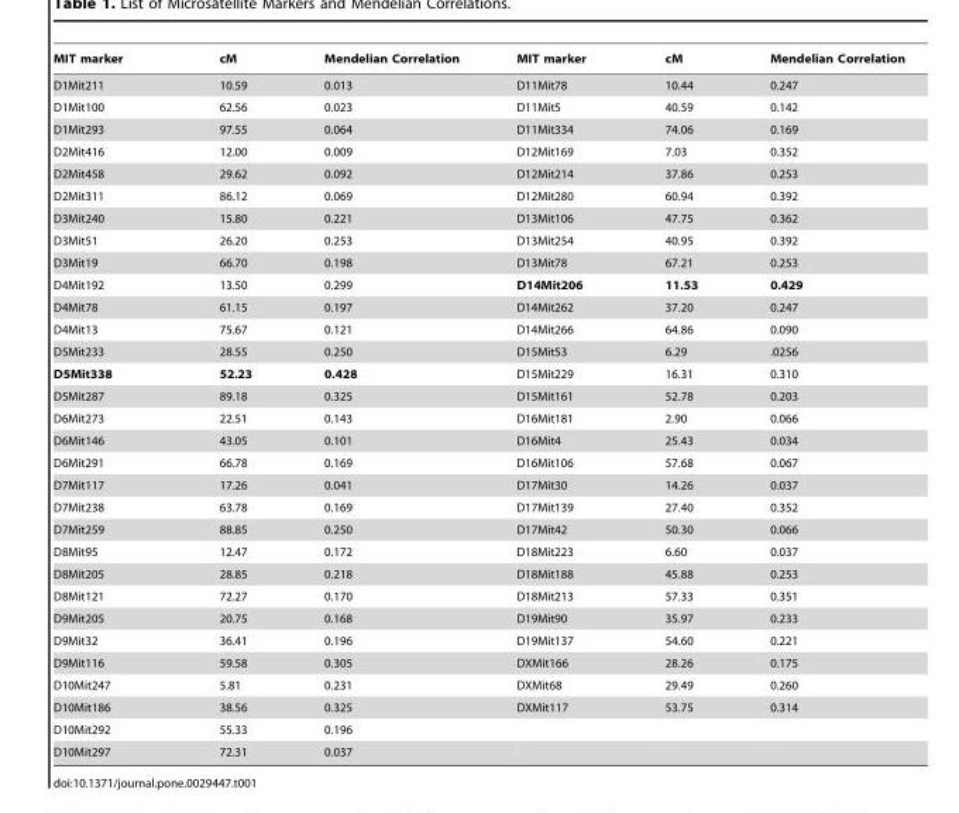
<table><thead><tr><td>MIT marker</td><td>cM</td><td>Mendelian Correlation</td><td>MIT marker</td><td>cM</td><td>Mendelian Correlation</td></tr></thead><tbody><tr><td>D1Mit211</td><td>10.59</td><td>0.013</td><td>D11Mit78</td><td>10.44</td><td>0.247</td></tr><tr><td>D1Mit100</td><td>62.56</td><td>0.023</td><td>D11Mit5</td><td>40.59</td><td>0.142</td></tr><tr><td>D1Mit293</td><td>97.55</td><td>0.064</td><td>D11Mit334</td><td>74.06</td><td>0.169</td></tr><tr><td>D2Mit416</td><td>12.00</td><td>0.009</td><td>D12Mit169</td><td>7.03</td><td>0.352</td></tr><tr><td>D2Mit458</td><td>29.62</td><td>0.092</td><td>D12Mit214</td><td>37.86</td><td>0.253</td></tr><tr><td>D2Mit311</td><td>86.12</td><td>0.069</td><td>D12Mit280</td><td>60.94</td><td>0.392</td></tr><tr><td>D3Mit240</td><td>15.80</td><td>0.221</td><td>D13Mit106</td><td>47.75</td><td>0.362</td></tr><tr><td>D3Mit51</td><td>26.20</td><td>0.253</td><td>D13Mit254</td><td>40.95</td><td>0.392</td></tr><tr><td>D3Mit19</td><td>66.70</td><td>0.198</td><td>D13Mit78</td><td>67.21</td><td>0.253</td></tr><tr><td>D4Mit192</td><td>13.50</td><td>0.299</td><td>D14Mit206</td><td>11.53</td><td>0.429</td></tr><tr><td>D4Mit78</td><td>61.15</td><td>0.197</td><td>D14Mit262</td><td>37.20</td><td>0.247</td></tr><tr><td>D4Mit13</td><td>75.67</td><td>0.121</td><td>D14Mit266</td><td>64.86</td><td>0.090</td></tr><tr><td>D5Mit233</td><td>28.55</td><td>0.250</td><td>D15Mit53</td><td>6.29</td><td>.0256</td></tr><tr><td>D5Mit338</td><td>52.23</td><td>0.428</td><td>D15Mit229</td><td>16.31</td><td>0.310</td></tr><tr><td>D5Mit287</td><td>89.18</td><td>0.325</td><td>D15Mit161</td><td>52.78</td><td>0.203</td></tr><tr><td>D6Mit273</td><td>22.51</td><td>0.143</td><td>D16Mit181</td><td>2.90</td><td>0.066</td></tr><tr><td>D6Mit146</td><td>43.05</td><td>0.101</td><td>D16Mit4</td><td>25.43</td><td>0.034</td></tr><tr><td>D6Mit291</td><td>66.78</td><td>0.169</td><td>D16Mit106</td><td>57.68</td><td>0.067</td></tr><tr><td>D7Mit117</td><td>17.26</td><td>0.041</td><td>D17Mit30</td><td>14.26</td><td>0.037</td></tr><tr><td>D7Mit238</td><td>63.78</td><td>0.169</td><td>D17Mit139</td><td>27.40</td><td>0.352</td></tr><tr><td>D7Mit259</td><td>88.85</td><td>0.250</td><td>D17Mit42</td><td>50.30</td><td>0.066</td></tr><tr><td>D8Mit95</td><td>12.47</td><td>0.172</td><td>D18Mit223</td><td>6.60</td><td>0.037</td></tr><tr><td>D8Mit205</td><td>28.85</td><td>0.218</td><td>D18Mit188</td><td>45.88</td><td>0.253</td></tr><tr><td>D8Mit121</td><td>72.27</td><td>0.170</td><td>D18Mit213</td><td>57.33</td><td>0.351</td></tr><tr><td>D9Mit205</td><td>20.75</td><td>0.168</td><td>D19Mit90</td><td>35.97</td><td>0.233</td></tr><tr><td>D9Mit32</td><td>36.41</td><td>0.196</td><td>D19Mit137</td><td>54.60</td><td>0.221</td></tr><tr><td>D9Mit116</td><td>59.58</td><td>0.305</td><td>DXMit166</td><td>28.26</td><td>0.175</td></tr><tr><td>D10Mit247</td><td>5.81</td><td>0.231</td><td>DXMit68</td><td>29.49</td><td>0.260</td></tr><tr><td>D10Mit186</td><td>38.56</td><td>0.325</td><td>DXMit117</td><td>53.75</td><td>0.314</td></tr><tr><td>D10Mit292</td><td>55.33</td><td>0.196</td><td></td><td></td><td></td></tr><tr><td>D10Mit297</td><td>72.31</td><td>0.037</td><td></td><td></td><td></td></tr></tbody></table>